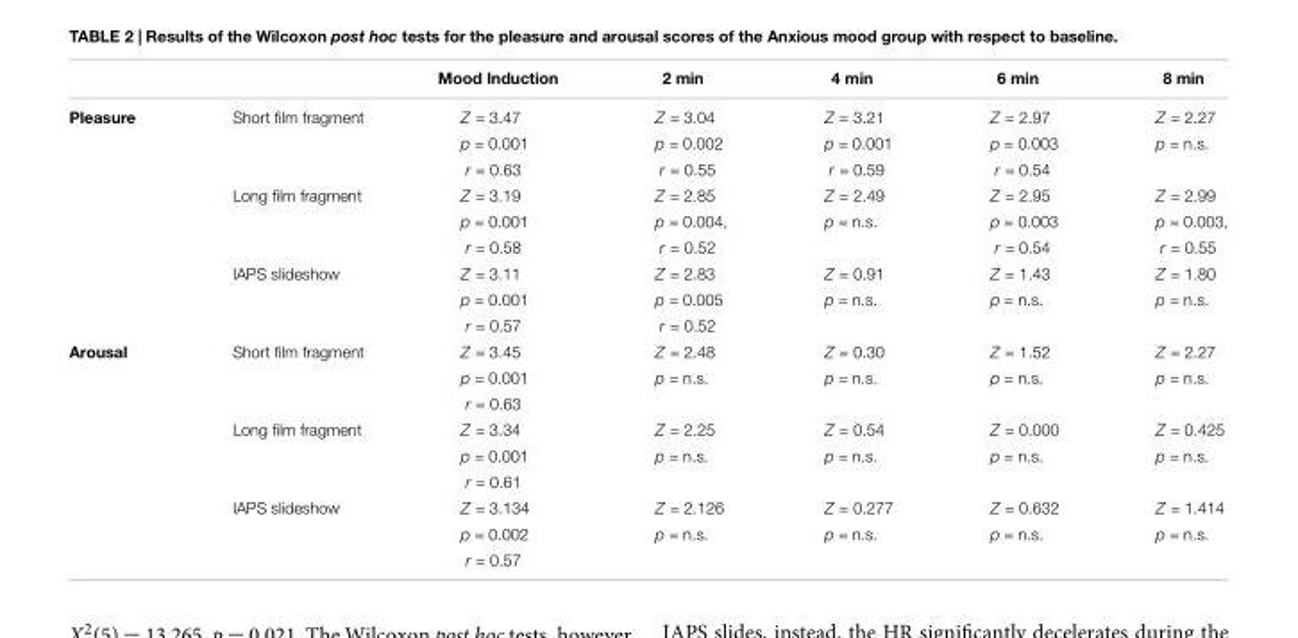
<table><thead><tr><td></td><td></td><td>Mood Induction</td><td>2 min</td><td>4 min</td><td>6 min</td><td>8 min</td></tr></thead><tbody><tr><td rowspan="9">Pleasure</td><td>Short film fragment</td><td>Z = 3.47</td><td>Z = 3.04</td><td>Z = 3.21</td><td>Z = 2.97</td><td>Z = 2.27</td></tr><tr><td></td><td>p = 0.001</td><td>p = 0.002</td><td>p = 0.001</td><td>p = 0.003</td><td>p = n.s.</td></tr><tr><td></td><td>r = 0.63</td><td>r = 0.55</td><td>r = 0.59</td><td>r = 0.54</td><td></td></tr><tr><td>Long film fragment</td><td>Z = 3.19</td><td>Z = 2.85</td><td>Z = 2.49</td><td>Z = 2.95</td><td>Z = 2.99</td></tr><tr><td></td><td>p = 0.001</td><td>p = 0.004,</td><td>p = n.s.</td><td>p = 0.003</td><td>p = 0.003,</td></tr><tr><td></td><td>r = 0.58</td><td>r = 0.52</td><td></td><td>r = 0.54</td><td>r = 0.55</td></tr><tr><td>IAPS slideshow</td><td>Z = 3.11</td><td>Z = 2.83</td><td>Z = 0.91</td><td>Z = 1.43</td><td>Z = 1.80</td></tr><tr><td></td><td>p = 0.001</td><td>p = 0.005</td><td>p = n.s.</td><td>p = n.s.</td><td>p = n.s.</td></tr><tr><td></td><td>r = 0.57</td><td>r = 0.52</td><td></td><td></td><td></td></tr><tr><td rowspan="9">Arousal</td><td>Short film fragment</td><td>Z = 3.45</td><td>Z = 2.48</td><td>Z = 0.30</td><td>Z = 1.52</td><td>Z = 2.27</td></tr><tr><td></td><td>p = 0.001</td><td>p = n.s.</td><td>p = n.s.</td><td>p = n.s.</td><td>p = n.s.</td></tr><tr><td></td><td>r = 0.63</td><td></td><td></td><td></td><td></td></tr><tr><td>Long film fragment</td><td>Z = 3.34</td><td>Z = 2.25</td><td>Z = 0.54</td><td>Z = 0.000</td><td>Z = 0.425</td></tr><tr><td></td><td>p = 0.001</td><td>p = n.s.</td><td>p = n.s.</td><td>p = n.s.</td><td>p = n.s.</td></tr><tr><td></td><td>r = 0.61</td><td></td><td></td><td></td><td></td></tr><tr><td>IAPS slideshow</td><td>Z = 3.134</td><td>Z = 2.126</td><td>Z = 0.277</td><td>Z = 0.632</td><td>Z = 1.414</td></tr><tr><td></td><td>p = 0.002</td><td>p = n.s.</td><td>p = n.s.</td><td>p = n.s.</td><td>p = n.s.</td></tr><tr><td></td><td>r = 0.57</td><td></td><td></td><td></td><td></td></tr></tbody></table>